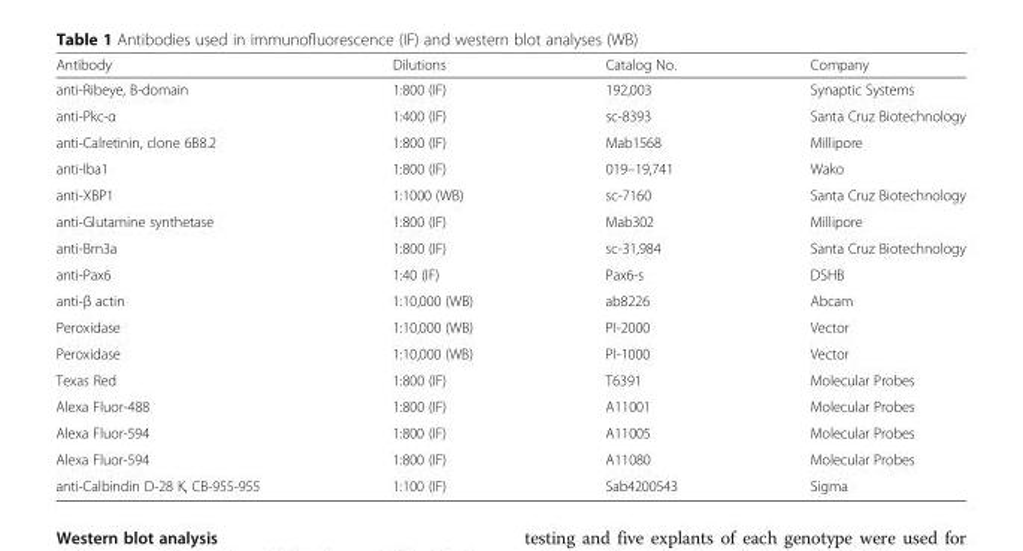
<table><thead><tr><td>Antibody</td><td>Dilutions</td><td>Catalog No.</td><td>Company</td></tr></thead><tbody><tr><td>anti-Ribeye, B-domain</td><td>1:800 (IF)</td><td>192,003</td><td>Synaptic Systems</td></tr><tr><td>anti-Pkc-α</td><td>1:400 (IF)</td><td>sc-8393</td><td>Santa Cruz Biotechnology</td></tr><tr><td>anti-Calretinin, clone 6B8.2</td><td>1:800 (IF)</td><td>Mab1568</td><td>Millipore</td></tr><tr><td>anti-Iba1</td><td>1:800 (IF)</td><td>019–19,741</td><td>Wako</td></tr><tr><td>anti-XBP1</td><td>1:1000 (WB)</td><td>sc-7160</td><td>Santa Cruz Biotechnology</td></tr><tr><td>anti-Glutamine synthetase</td><td>1:800 (IF)</td><td>Mab302</td><td>Millipore</td></tr><tr><td>anti-Brn3a</td><td>1:800 (IF)</td><td>sc-31,984</td><td>Santa Cruz Biotechnology</td></tr><tr><td>anti-Pax6</td><td>1:40 (IF)</td><td>Pax6-s</td><td>DSHB</td></tr><tr><td>anti-β actin</td><td>1:10,000 (WB)</td><td>ab8226</td><td>Abcam</td></tr><tr><td>Peroxidase</td><td>1:10,000 (WB)</td><td>PI-2000</td><td>Vector</td></tr><tr><td>Peroxidase</td><td>1:10,000 (WB)</td><td>PI-1000</td><td>Vector</td></tr><tr><td>Texas Red</td><td>1:800 (IF)</td><td>T6391</td><td>Molecular Probes</td></tr><tr><td>Alexa Fluor-488</td><td>1:800 (IF)</td><td>A11001</td><td>Molecular Probes</td></tr><tr><td>Alexa Fluor-594</td><td>1:800 (IF)</td><td>A11005</td><td>Molecular Probes</td></tr><tr><td>Alexa Fluor-594</td><td>1:800 (IF)</td><td>A11080</td><td>Molecular Probes</td></tr><tr><td>anti-Calbindin D-28 K, CB-955-955</td><td>1:100 (IF)</td><td>Sab4200543</td><td>Sigma</td></tr></tbody></table>